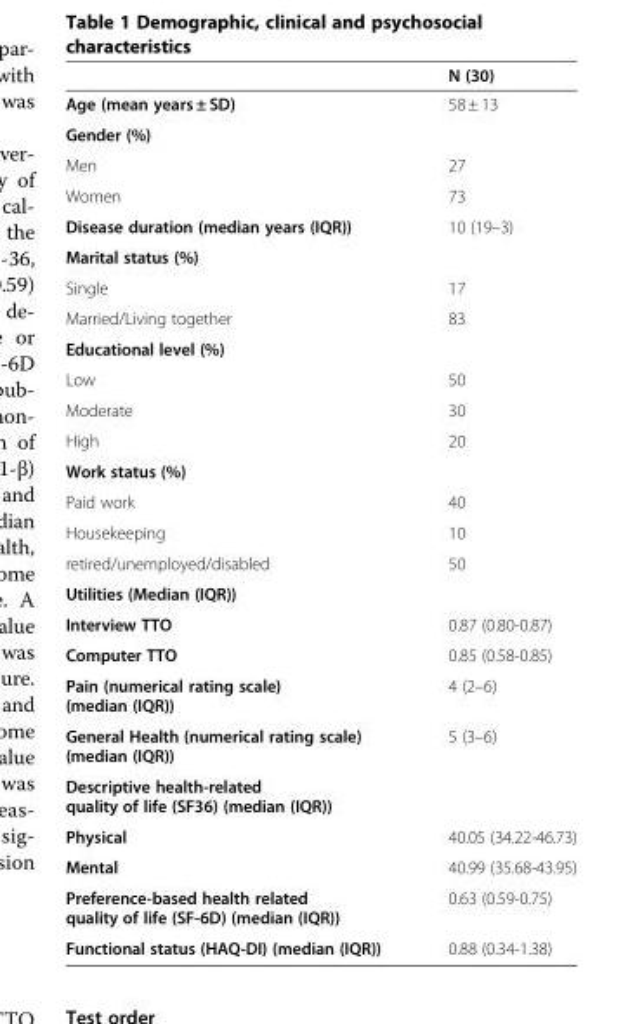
<table><thead><tr><td></td><td>N (30)</td></tr></thead><tbody><tr><td>Age (mean years ± SD)</td><td>58 ± 13</td></tr><tr><td colspan="2">Gender (%)</td></tr><tr><td>Men</td><td>27</td></tr><tr><td>Women</td><td>73</td></tr><tr><td>Disease duration (median years (IQR))</td><td>10 (19–3)</td></tr><tr><td colspan="2">Marital status (%)</td></tr><tr><td>Single</td><td>17</td></tr><tr><td>Married/Living together</td><td>83</td></tr><tr><td colspan="2">Educational level (%)</td></tr><tr><td>Low</td><td>50</td></tr><tr><td>Moderate</td><td>30</td></tr><tr><td>High</td><td>20</td></tr><tr><td colspan="2">Work status (%)</td></tr><tr><td>Paid work</td><td>40</td></tr><tr><td>Housekeeping</td><td>10</td></tr><tr><td>retired/unemployed/disabled</td><td>50</td></tr><tr><td colspan="2">Utilities (Median (IQR))</td></tr><tr><td>Interview TTO</td><td>0.87 (0.80-0.87)</td></tr><tr><td>Computer TTO</td><td>0.85 (0.58-0.85)</td></tr><tr><td>Pain (numerical rating scale) (median (IQR))</td><td>4 (2–6)</td></tr><tr><td>General Health (numerical rating scale) (median (IQR))</td><td>5 (3–6)</td></tr><tr><td colspan="2">Descriptive health-related quality of life (SF36) (median (IQR))</td></tr><tr><td>Physical</td><td>40.05 (34.22-46.73)</td></tr><tr><td>Mental</td><td>40.99 (35.68-43.95)</td></tr><tr><td>Preference-based health related quality of life (SF-6D) (median (IQR))</td><td>0.63 (0.59-0.75)</td></tr><tr><td>Functional status (HAQ-DI) (median (IQR))</td><td>0.88 (0.34-1.38)</td></tr></tbody></table>